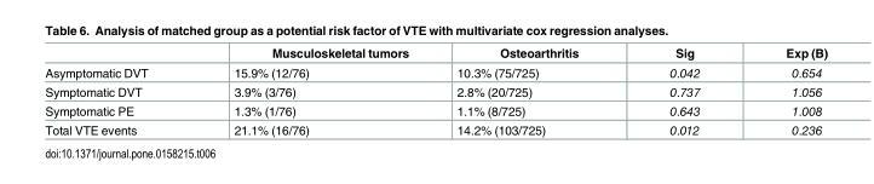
<table><thead><tr><td></td><td>Musculoskeletal tumors</td><td>Osteoarthritis</td><td>Sig</td><td>Exp (B)</td></tr></thead><tbody><tr><td>Asymptomatic DVT</td><td>15.9% (12/76)</td><td>10.3% (75/725)</td><td>0.042</td><td>0.654</td></tr><tr><td>Symptomatic DVT</td><td>3.9% (3/76)</td><td>2.8% (20/725)</td><td>0.737</td><td>1.056</td></tr><tr><td>Symptomatic PE</td><td>1.3% (1/76)</td><td>1.1% (8/725)</td><td>0.643</td><td>1.008</td></tr><tr><td>Total VTE events</td><td>21.1% (16/76)</td><td>14.2% (103/725)</td><td>0.012</td><td>0.236</td></tr></tbody></table>